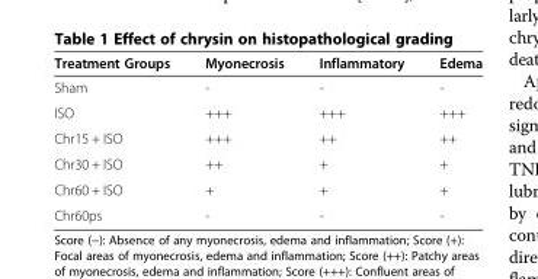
<table><thead><tr><td>Treatment Groups</td><td>Myonecrosis</td><td>Inflammatory</td><td>Edema</td></tr></thead><tbody><tr><td>Sham</td><td>-</td><td>-</td><td>-</td></tr><tr><td>ISO</td><td>+++</td><td>+++</td><td>+++</td></tr><tr><td>Chr15 + ISO</td><td>+++</td><td>++</td><td>++</td></tr><tr><td>Chr30 + ISO</td><td>++</td><td>+</td><td>+</td></tr><tr><td>Chr60 + ISO</td><td>+</td><td>+</td><td>+</td></tr><tr><td>Chr60ps</td><td>-</td><td>-</td><td>-</td></tr></tbody></table>